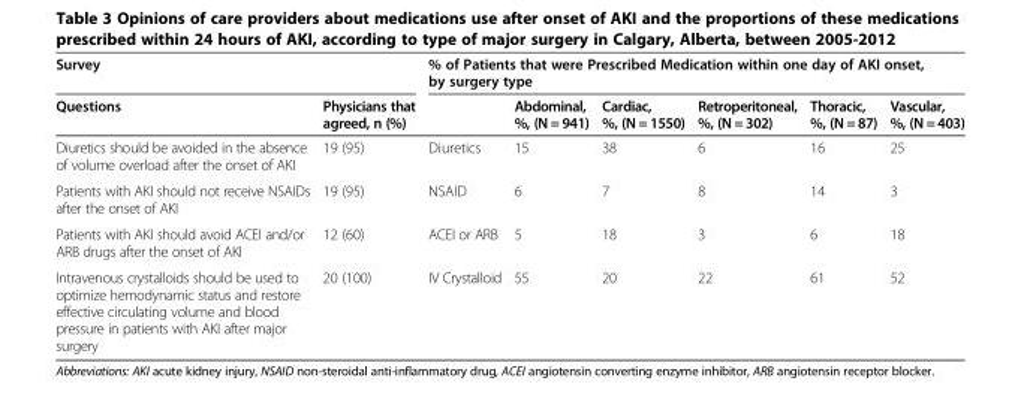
<table><thead><tr><td colspan="2">Survey</td><td colspan="6">% of Patients that were Prescribed Medication within one day of AKI onset, by surgery type</td></tr><tr><td>Questions</td><td>Physicians that agreed, n (%)</td><td></td><td>Abdominal, %, (N = 941)</td><td>Cardiac, %, (N = 1550)</td><td>Retroperitoneal, %, (N = 302)</td><td>Thoracic, %, (N = 87)</td><td>Vascular, %, (N = 403)</td></tr></thead><tbody><tr><td>Diuretics should be avoided in the absence of volume overload after the onset of AKI</td><td>19 (95)</td><td>Diuretics</td><td>15</td><td>38</td><td>6</td><td>16</td><td>25</td></tr><tr><td>Patients with AKI should not receive NSAIDs after the onset of AKI</td><td>19 (95)</td><td>NSAID</td><td>6</td><td>7</td><td>8</td><td>14</td><td>3</td></tr><tr><td>Patients with AKI should avoid ACEI and/or ARB drugs after the onset of AKI</td><td>12 (60)</td><td>ACEI or ARB</td><td>5</td><td>18</td><td>3</td><td>6</td><td>18</td></tr><tr><td>Intravenous crystalloids should be used to optimize hemodynamic status and restore effective circulating volume and blood pressure in patients with AKI after major surgery</td><td>20 (100)</td><td>IV Crystalloid</td><td>55</td><td>20</td><td>22</td><td>61</td><td>52</td></tr></tbody></table>